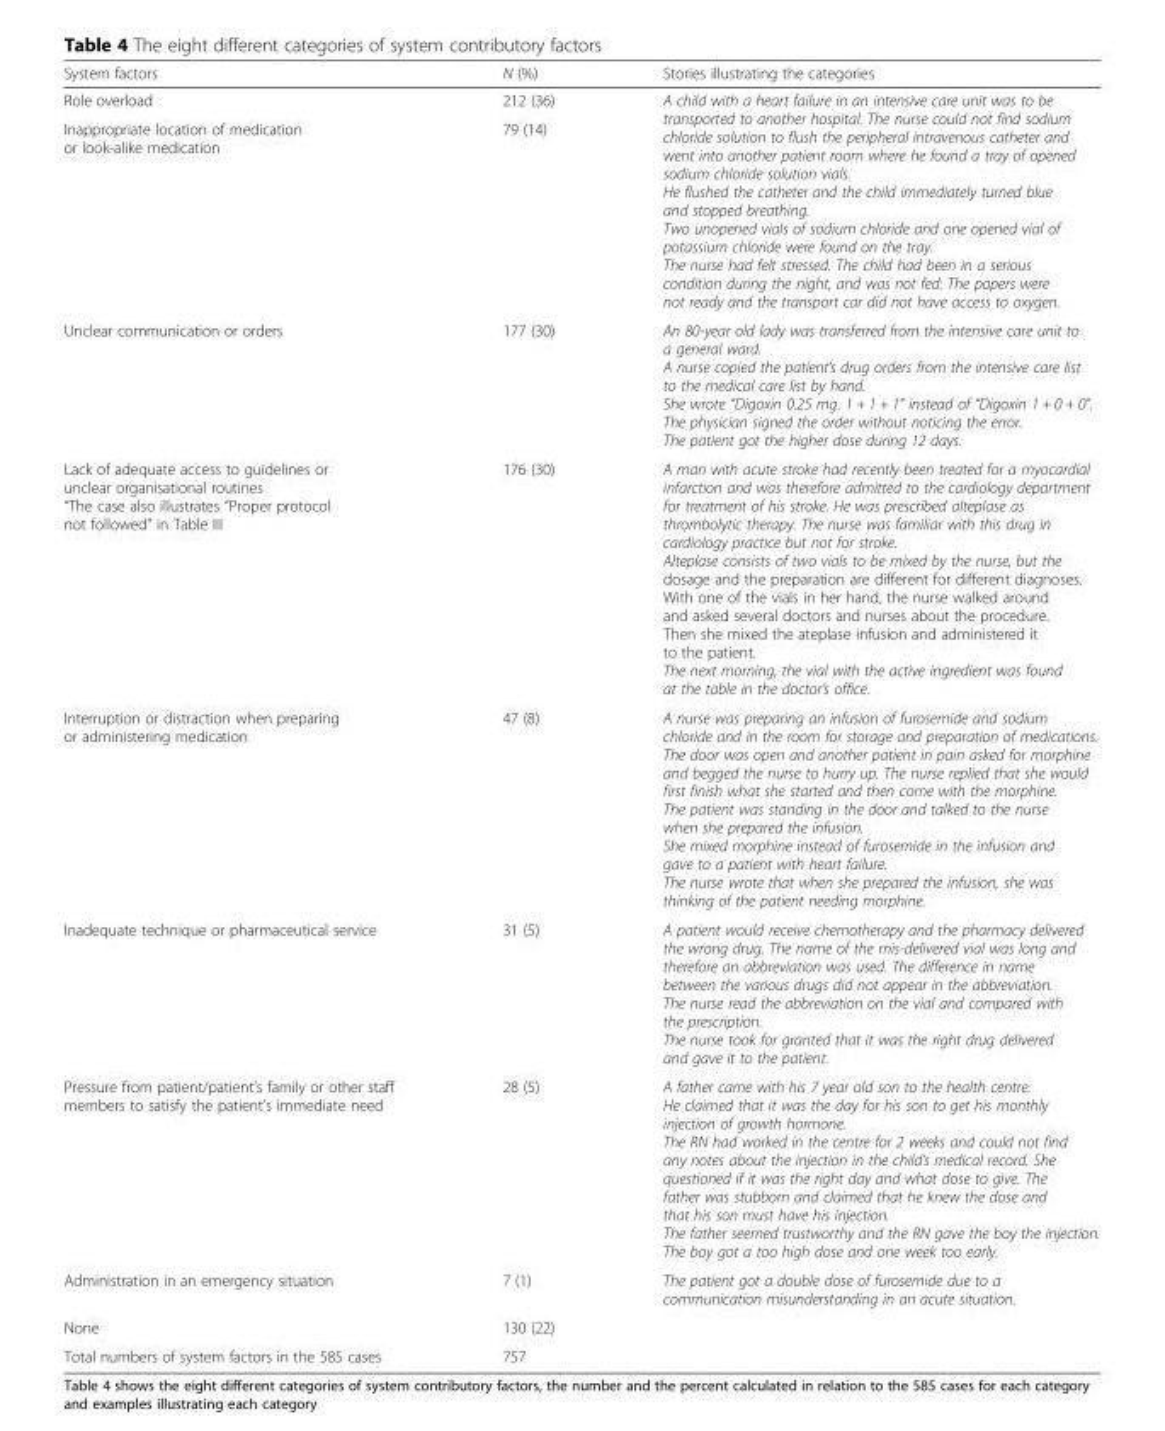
<table><thead><tr><td>System factors</td><td>N (%)</td><td>Stories illustrating the categories</td></tr></thead><tbody><tr><td>Role overload</td><td>212 (36)</td><td rowspan="2">A child with a heart failure in an intensive care unit was to be transported to another hospital. The nurse could not find sodium chloride solution to flush the peripheral intravenous catheter and went into another patient room where he found a tray of opened sodium chloride solution vials. He flushed the catheter and the child immediately turned blue and stopped breathing. Two unopened vials of sodium chloride and one opened vial of potassium chloride were found on the tray. The nurse had felt stressed. The child had been in a serious condition during the night, and was not fed: The papers were not ready and the transport car did not have access to oxygen.</td></tr><tr><td>Inappropriate location of medication or look-alike medication</td><td>79 (14)</td></tr><tr><td>Unclear communication or orders</td><td>177 (30)</td><td>An 80-year old lady was transferred from the intensive care unit to a general ward. A nurse copied the patient’s drug orders from the intensive care list to the medical care list by hand. She wrote “Digoxin 0.25 mg. 1 + 1 + 1” instead of “Digoxin 1 + 0 + 0”. The physician signed the order without noticing the error. The patient got the higher dose during 12 days.</td></tr><tr><td>Lack of adequate access to guidelines or unclear organisational routines “The case also illustrates “Proper protocol not followed” in Table III</td><td>176 (30)</td><td>A man with acute stroke had recently been treated for a myocardial infarction and was therefore admitted to the cardiology department for treatment of his stroke. He was prescribed alteplase as thrombolytic therapy. The nurse was familiar with this drug in cardiology practice but not for stroke. Alteplase consists of two vials to be mixed by the nurse, but the dosage and the preparation are different for different diagnoses. With one of the vials in her hand, the nurse walked around and asked several doctors and nurses about the procedure. Then she mixed the ateplase infusion and administered it to the patient. The next morning, the vial with the active ingredient was found at the table in the doctor’s office.</td></tr><tr><td>Interruption or distraction when preparing or administering medication</td><td>47 (8)</td><td>A nurse was preparing an infusion of furosemide and sodium chloride and in the room for storage and preparation of medications. The door was open and another patient in pain asked for morphine and begged the nurse to hurry up. The nurse replied that she would first finish what she started and then come with the morphine. The patient was standing in the door and talked to the nurse when she prepared the infusion. She mixed morphine instead of furosemide in the infusion and gave to a patient with heart failure. The nurse wrote that when she prepared the infusion, she was thinking of the patient needing morphine.</td></tr><tr><td>Inadequate technique or pharmaceutical service</td><td>31 (5)</td><td>A patient would receive chemotherapy and the pharmacy delivered the wrong drug. The name of the mis-delivered vial was long and therefore an abbreviation was used. The difference in name between the various drugs did not appear in the abbreviation. The nurse read the abbreviation on the vial and compared with the prescription. The nurse took for granted that it was the right drug delivered and gave it to the patient.</td></tr><tr><td>Pressure from patient/patient’s family or other staff members to satisfy the patient’s immediate need</td><td>28 (5)</td><td>A father came with his 7 year old son to the health centre. He claimed that it was the day for his son to get his monthly injection of growth hormone. The RN had worked in the centre for 2 weeks and could not find any notes about the injection in the child’s medical record. She questioned if it was the right day and what dose to give. The father was stubborn and claimed that he knew the dose and that his son must have his injection. The father seemed trustworthy and the RN gave the boy the injection. The boy got a too high dose and one week too early.</td></tr><tr><td>Administration in an emergency situation</td><td>7 (1)</td><td>The patient got a double dose of furosemide due to a communication misunderstanding in an acute situation.</td></tr><tr><td>None</td><td>130 (22)</td><td></td></tr><tr><td>Total numbers of system factors in the 585 cases</td><td>757</td><td></td></tr></tbody></table>